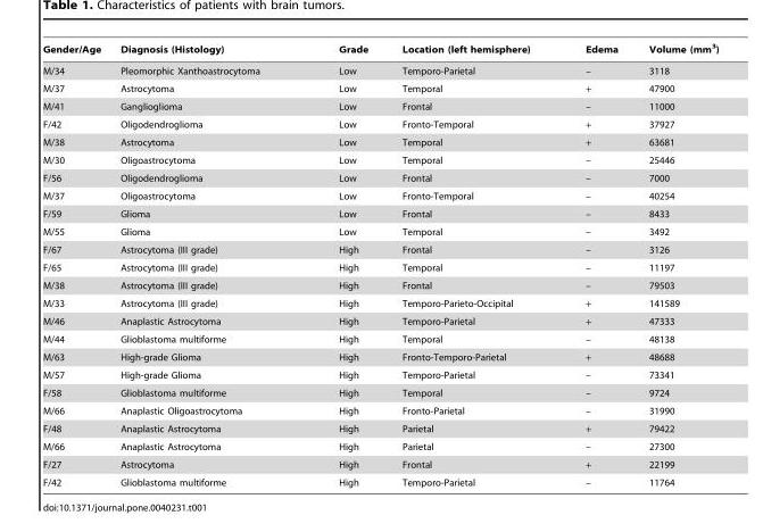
<table><thead><tr><td>Gender/Age</td><td>Diagnosis (Histology)</td><td>Grade</td><td>Location (left hemisphere)</td><td>Edema</td><td>Volume (mm<sup>3</sup>)</td></tr></thead><tbody><tr><td>M/34</td><td>Pleomorphic Xanthoastrocytoma</td><td>Low</td><td>Temporo-Parietal</td><td>–</td><td>3118</td></tr><tr><td>M/37</td><td>Astrocytoma</td><td>Low</td><td>Temporal</td><td>+</td><td>47900</td></tr><tr><td>M/41</td><td>Ganglioglioma</td><td>Low</td><td>Frontal</td><td>–</td><td>11000</td></tr><tr><td>F/42</td><td>Oligodendroglioma</td><td>Low</td><td>Fronto-Temporal</td><td>+</td><td>37927</td></tr><tr><td>M/38</td><td>Astrocytoma</td><td>Low</td><td>Temporal</td><td>+</td><td>63681</td></tr><tr><td>M/30</td><td>Oligoastrocytoma</td><td>Low</td><td>Temporal</td><td>–</td><td>25446</td></tr><tr><td>F/56</td><td>Oligodendroglioma</td><td>Low</td><td>Frontal</td><td>–</td><td>7000</td></tr><tr><td>M/37</td><td>Oligoastrocytoma</td><td>Low</td><td>Fronto-Temporal</td><td>–</td><td>40254</td></tr><tr><td>F/59</td><td>Glioma</td><td>Low</td><td>Frontal</td><td>–</td><td>8433</td></tr><tr><td>M/55</td><td>Glioma</td><td>Low</td><td>Temporal</td><td>–</td><td>3492</td></tr><tr><td>F/67</td><td>Astrocytoma (III grade)</td><td>High</td><td>Frontal</td><td>–</td><td>3126</td></tr><tr><td>F/65</td><td>Astrocytoma (III grade)</td><td>High</td><td>Temporal</td><td>–</td><td>11197</td></tr><tr><td>M/38</td><td>Astrocytoma (III grade)</td><td>High</td><td>Frontal</td><td>–</td><td>79503</td></tr><tr><td>M/33</td><td>Astrocytoma (III grade)</td><td>High</td><td>Temporo-Parieto-Occipital</td><td>+</td><td>141589</td></tr><tr><td>M/46</td><td>Anaplastic Astrocytoma</td><td>High</td><td>Temporo-Parietal</td><td>+</td><td>47333</td></tr><tr><td>M/44</td><td>Glioblastoma multiforme</td><td>High</td><td>Temporal</td><td>–</td><td>48138</td></tr><tr><td>M/63</td><td>High-grade Glioma</td><td>High</td><td>Fronto-Temporo-Parietal</td><td>+</td><td>48688</td></tr><tr><td>M/57</td><td>High-grade Glioma</td><td>High</td><td>Temporo-Parietal</td><td>–</td><td>73341</td></tr><tr><td>F/58</td><td>Glioblastoma multiforme</td><td>High</td><td>Temporal</td><td>–</td><td>9724</td></tr><tr><td>M/66</td><td>Anaplastic Oligoastrocytoma</td><td>High</td><td>Fronto-Parietal</td><td>–</td><td>31990</td></tr><tr><td>F/48</td><td>Anaplastic Astrocytoma</td><td>High</td><td>Parietal</td><td>+</td><td>79422</td></tr><tr><td>M/66</td><td>Anaplastic Astrocytoma</td><td>High</td><td>Parietal</td><td>–</td><td>27300</td></tr><tr><td>F/27</td><td>Astrocytoma</td><td>High</td><td>Frontal</td><td>+</td><td>22199</td></tr><tr><td>F/42</td><td>Glioblastoma multiforme</td><td>High</td><td>Temporo-Parietal</td><td>–</td><td>11764</td></tr></tbody></table>